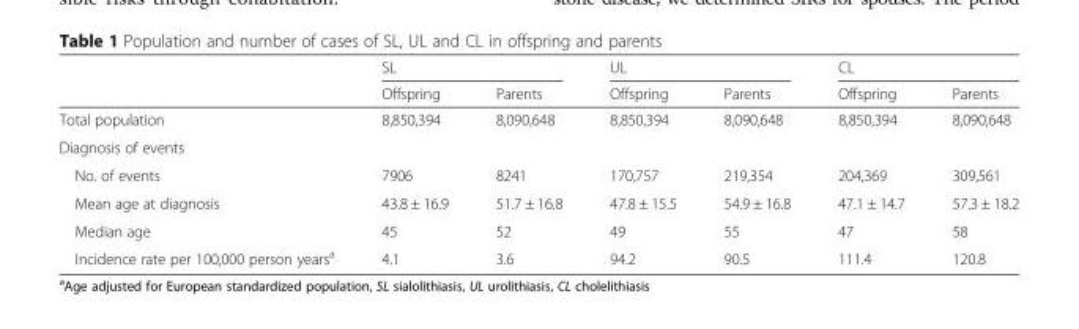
<table><thead><tr><td rowspan="2"></td><td colspan="2">SL</td><td colspan="2">UL</td><td colspan="2">CL</td></tr><tr><td>Offspring</td><td>Parents</td><td>Offspring</td><td>Parents</td><td>Offspring</td><td>Parents</td></tr></thead><tbody><tr><td>Total population</td><td>8,850,394</td><td>8,090,648</td><td>8,850,394</td><td>8,090,648</td><td>8,850,394</td><td>8,090,648</td></tr><tr><td colspan="7">Diagnosis of events</td></tr><tr><td>No. of events</td><td>7906</td><td>8241</td><td>170,757</td><td>219,354</td><td>204,369</td><td>309,561</td></tr><tr><td>Mean age at diagnosis</td><td>43.8 ± 16.9</td><td>51.7 ± 16.8</td><td>47.8 ± 15.5</td><td>54.9 ± 16.8</td><td>47.1 ± 14.7</td><td>57.3 ± 18.2</td></tr><tr><td>Median age</td><td>45</td><td>52</td><td>49</td><td>55</td><td>47</td><td>58</td></tr><tr><td>Incidence rate per 100,000 person years<sup>a</sup></td><td>4.1</td><td>3.6</td><td>94.2</td><td>90.5</td><td>111.4</td><td>120.8</td></tr></tbody></table>